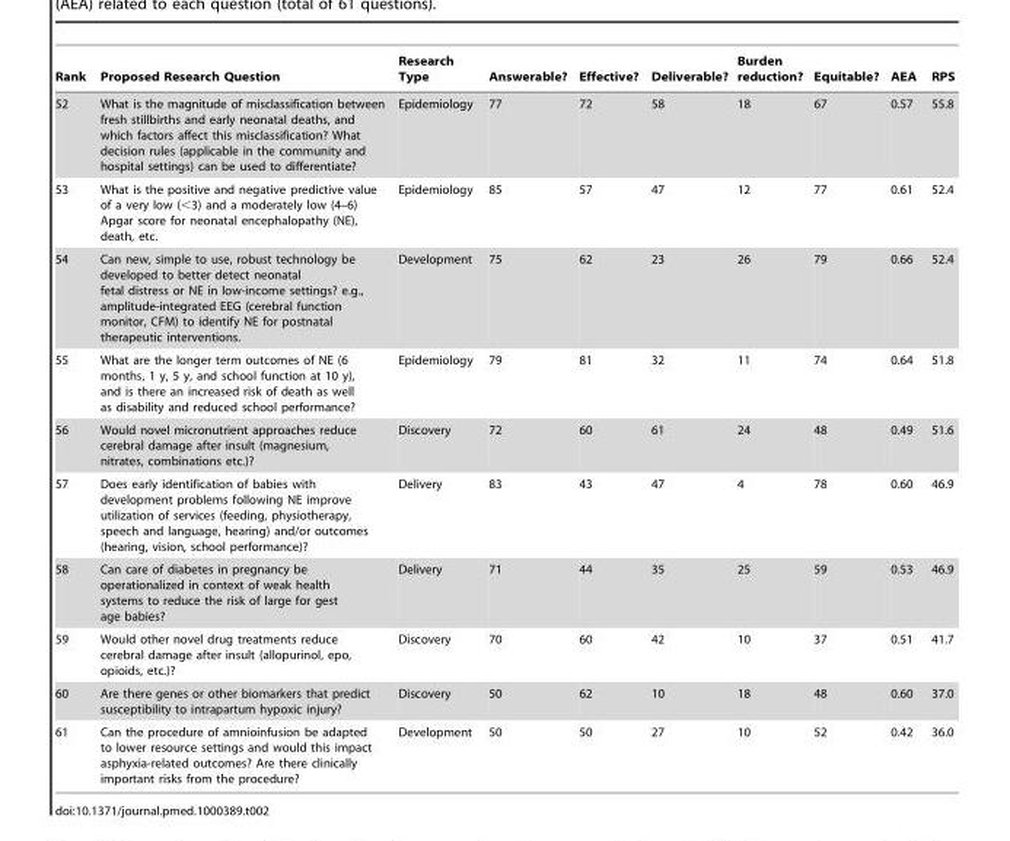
<table><thead><tr><td>Rank</td><td>Proposed Research Question</td><td>Research Type</td><td>Answerable?</td><td>Effective?</td><td>Deliverable?</td><td>Burden reduction?</td><td>Equitable?</td><td>AEA</td><td>RPS</td></tr></thead><tbody><tr><td>52</td><td>What is the magnitude of misclassification between fresh stillbirths and early neonatal deaths, and which factors affect this misclassification? What decision rules (applicable in the community and hospital settings) can be used to differentiate?</td><td>Epidemiology</td><td>77</td><td>72</td><td>58</td><td>18</td><td>67</td><td>0.57</td><td>55.8</td></tr><tr><td>53</td><td>What is the positive and negative predictive value of a very low (&lt;3) and a moderately low (4–6) Apgar score for neonatal encephalopathy (NE), death, etc.</td><td>Epidemiology</td><td>85</td><td>57</td><td>47</td><td>12</td><td>77</td><td>0.61</td><td>52.4</td></tr><tr><td>54</td><td>Can new, simple to use, robust technology be developed to better detect neonatal fetal distress or NE in low-income settings? e.g., amplitude-integrated EEG (cerebral function monitor, CFM) to identify NE for postnatal therapeutic interventions.</td><td>Development</td><td>75</td><td>62</td><td>23</td><td>26</td><td>79</td><td>0.66</td><td>52.4</td></tr><tr><td>55</td><td>What are the longer term outcomes of NE (6 months, 1 y, 5 y, and school function at 10 y), and is there an increased risk of death as well as disability and reduced school performance?</td><td>Epidemiology</td><td>79</td><td>81</td><td>32</td><td>11</td><td>74</td><td>0.64</td><td>51.8</td></tr><tr><td>56</td><td>Would novel micronutrient approaches reduce cerebral damage after insult (magnesium, nitrates, combinations etc.)?</td><td>Discovery</td><td>72</td><td>60</td><td>61</td><td>24</td><td>48</td><td>0.49</td><td>51.6</td></tr><tr><td>57</td><td>Does early identification of babies with development problems following NE improve utilization of services (feeding, physiotherapy, speech and language, hearing) and/or outcomes (hearing, vision, school performance)?</td><td>Delivery</td><td>83</td><td>43</td><td>47</td><td>4</td><td>78</td><td>0.60</td><td>46.9</td></tr><tr><td>58</td><td>Can care of diabetes in pregnancy be operationalized in context of weak health systems to reduce the risk of large for gest age babies?</td><td>Delivery</td><td>71</td><td>44</td><td>35</td><td>25</td><td>59</td><td>0.53</td><td>46.9</td></tr><tr><td>59</td><td>Would other novel drug treatments reduce cerebral damage after insult (allopurinol, epo, opioids, etc.)?</td><td>Discovery</td><td>70</td><td>60</td><td>42</td><td>10</td><td>37</td><td>0.51</td><td>41.7</td></tr><tr><td>60</td><td>Are there genes or other biomarkers that predict susceptibility to intrapartum hypoxic injury?</td><td>Discovery</td><td>50</td><td>62</td><td>10</td><td>18</td><td>48</td><td>0.60</td><td>37.0</td></tr><tr><td>61</td><td>Can the procedure of amnioinfusion be adapted to lower resource settings and would this impact asphyxia-related outcomes? Are there clinically important risks from the procedure?</td><td>Development</td><td>50</td><td>50</td><td>27</td><td>10</td><td>52</td><td>0.42</td><td>36.0</td></tr></tbody></table>